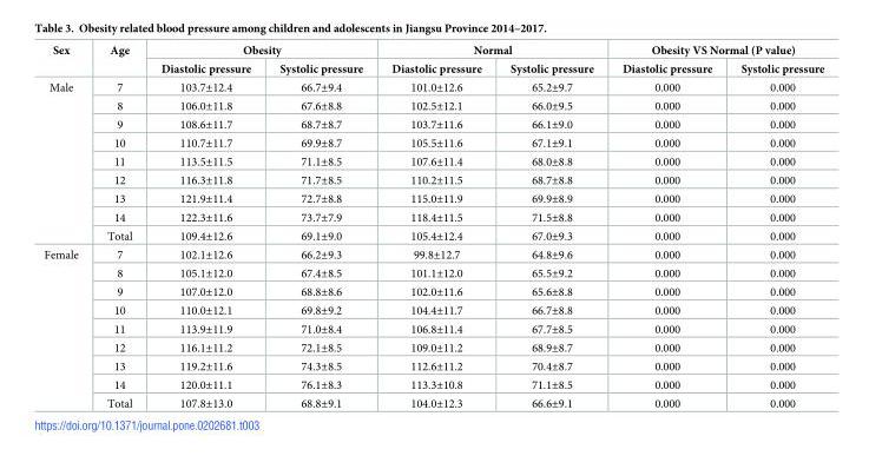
<table><thead><tr><td rowspan="2">Sex</td><td rowspan="2">Age</td><td colspan="2">Obesity</td><td colspan="2">Normal</td><td colspan="2">Obesity VS Normal (P value)</td></tr><tr><td>Diastolic pressure</td><td>Systolic pressure</td><td>Diastolic pressure</td><td>Systolic pressure</td><td>Diastolic pressure</td><td>Systolic pressure</td></tr></thead><tbody><tr><td rowspan="9">Male</td><td>7</td><td>103.7±12.4</td><td>66.7±9.4</td><td>101.0±12.6</td><td>65.2±9.7</td><td>0.000</td><td>0.000</td></tr><tr><td>8</td><td>106.0±11.8</td><td>67.6±8.8</td><td>102.5±12.1</td><td>66.0±9.5</td><td>0.000</td><td>0.000</td></tr><tr><td>9</td><td>108.6±11.7</td><td>68.7±8.7</td><td>103.7±11.6</td><td>66.1±9.0</td><td>0.000</td><td>0.000</td></tr><tr><td>10</td><td>110.7±11.7</td><td>69.9±8.7</td><td>105.5±11.6</td><td>67.1±9.1</td><td>0.000</td><td>0.000</td></tr><tr><td>11</td><td>113.5±11.5</td><td>71.1±8.5</td><td>107.6±11.4</td><td>68.0±8.8</td><td>0.000</td><td>0.000</td></tr><tr><td>12</td><td>116.3±11.8</td><td>71.7±8.5</td><td>110.2±11.5</td><td>68.7±8.8</td><td>0.000</td><td>0.000</td></tr><tr><td>13</td><td>121.9±11.4</td><td>72.7±8.8</td><td>115.0±11.9</td><td>69.9±8.9</td><td>0.000</td><td>0.000</td></tr><tr><td>14</td><td>122.3±11.6</td><td>73.7±7.9</td><td>118.4±11.5</td><td>71.5±8.8</td><td>0.000</td><td>0.000</td></tr><tr><td>Total</td><td>109.4±12.6</td><td>69.1±9.0</td><td>105.4±12.4</td><td>67.0±9.3</td><td>0.000</td><td>0.000</td></tr><tr><td rowspan="9">Female</td><td>7</td><td>102.1±12.6</td><td>66.2±9.3</td><td>99.8±12.7</td><td>64.8±9.6</td><td>0.000</td><td>0.000</td></tr><tr><td>8</td><td>105.1±12.0</td><td>67.4±8.5</td><td>101.1±12.0</td><td>65.5±9.2</td><td>0.000</td><td>0.000</td></tr><tr><td>9</td><td>107.0±12.0</td><td>68.8±8.6</td><td>102.0±11.6</td><td>65.6±8.8</td><td>0.000</td><td>0.000</td></tr><tr><td>10</td><td>110.0±12.1</td><td>69.8±9.2</td><td>104.4±11.7</td><td>66.7±8.8</td><td>0.000</td><td>0.000</td></tr><tr><td>11</td><td>113.9±11.9</td><td>71.0±8.4</td><td>106.8±11.4</td><td>67.7±8.5</td><td>0.000</td><td>0.000</td></tr><tr><td>12</td><td>116.1±11.2</td><td>72.1±8.5</td><td>109.0±11.2</td><td>68.9±8.7</td><td>0.000</td><td>0.000</td></tr><tr><td>13</td><td>119.2±11.6</td><td>74.3±8.5</td><td>112.6±11.2</td><td>70.4±8.7</td><td>0.000</td><td>0.000</td></tr><tr><td>14</td><td>120.0±11.1</td><td>76.1±8.3</td><td>113.3±10.8</td><td>71.1±8.5</td><td>0.000</td><td>0.000</td></tr><tr><td>Total</td><td>107.8±13.0</td><td>68.8±9.1</td><td>104.0±12.3</td><td>66.6±9.1</td><td>0.000</td><td>0.000</td></tr></tbody></table>